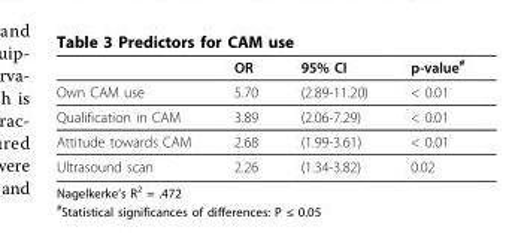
<table><thead><tr><td></td><td>OR</td><td>95% CI</td><td>p-value<sup>#</sup></td></tr></thead><tbody><tr><td>Own CAM use</td><td>5.70</td><td>(2.89-11.20)</td><td>&lt; 0.01</td></tr><tr><td>Qualification in CAM</td><td>3.89</td><td>(2.06-7.29)</td><td>&lt; 0.01</td></tr><tr><td>Attitude towards CAM</td><td>2.68</td><td>(1.99-3.61)</td><td>&lt; 0.01</td></tr><tr><td>Ultrasound scan</td><td>2.26</td><td>(1.34-3.82)</td><td>0.02</td></tr></tbody></table>